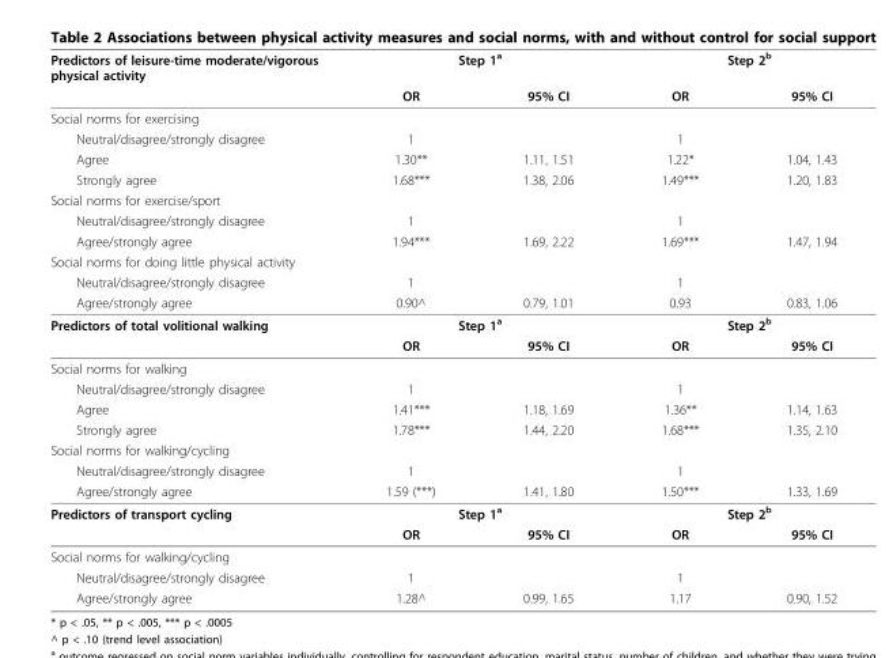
<table><thead><tr><td rowspan="2">Predictors of leisure-time moderate/vigorous physical activity</td><td colspan="2">Step 1<sup>a</sup></td><td colspan="2">Step 2<sup>b</sup></td></tr><tr><td>OR</td><td>95% CI</td><td>OR</td><td>95% CI</td></tr></thead><tbody><tr><td colspan="5">Social norms for exercising</td></tr><tr><td>Neutral/disagree/strongly disagree</td><td>1</td><td></td><td>1</td><td></td></tr><tr><td>Agree</td><td>1.30**</td><td>1.11, 1.51</td><td>1.22*</td><td>1.04, 1.43</td></tr><tr><td>Strongly agree</td><td>1.68***</td><td>1.38, 2.06</td><td>1.49***</td><td>1.20, 1.83</td></tr><tr><td colspan="5">Social norms for exercise/sport</td></tr><tr><td>Neutral/disagree/strongly disagree</td><td>1</td><td></td><td>1</td><td></td></tr><tr><td>Agree/strongly agree</td><td>1.94***</td><td>1.69, 2.22</td><td>1.69***</td><td>1.47, 1.94</td></tr><tr><td colspan="5">Social norms for doing little physical activity</td></tr><tr><td>Neutral/disagree/strongly disagree</td><td>1</td><td></td><td>1</td><td></td></tr><tr><td>Agree/strongly agree</td><td>0.90^</td><td>0.79, 1.01</td><td>0.93</td><td>0.83, 1.06</td></tr><tr><td rowspan="2">Predictors of total volitional walking</td><td colspan="2">Step 1<sup>a</sup></td><td colspan="2">Step 2<sup>b</sup></td></tr><tr><td>OR</td><td>95% CI</td><td>OR</td><td>95% CI</td></tr><tr><td colspan="5">Social norms for walking</td></tr><tr><td>Neutral/disagree/strongly disagree</td><td>1</td><td></td><td>1</td><td></td></tr><tr><td>Agree</td><td>1.41***</td><td>1.18, 1.69</td><td>1.36**</td><td>1.14, 1.63</td></tr><tr><td>Strongly agree</td><td>1.78***</td><td>1.44, 2.20</td><td>1.68***</td><td>1.35, 2.10</td></tr><tr><td colspan="5">Social norms for walking/cycling</td></tr><tr><td>Neutral/disagree/strongly disagree</td><td>1</td><td></td><td>1</td><td></td></tr><tr><td>Agree/strongly agree</td><td>1.59 (***)</td><td>1.41, 1.80</td><td>1.50***</td><td>1.33, 1.69</td></tr><tr><td rowspan="2">Predictors of transport cycling</td><td colspan="2">Step 1<sup>a</sup></td><td colspan="2">Step 2<sup>b</sup></td></tr><tr><td>OR</td><td>95% CI</td><td>OR</td><td>95% CI</td></tr><tr><td colspan="5">Social norms for walking/cycling</td></tr><tr><td>Neutral/disagree/strongly disagree</td><td>1</td><td></td><td>1</td><td></td></tr><tr><td>Agree/strongly agree</td><td>1.28^</td><td>0.99, 1.65</td><td>1.17</td><td>0.90, 1.52</td></tr></tbody></table>